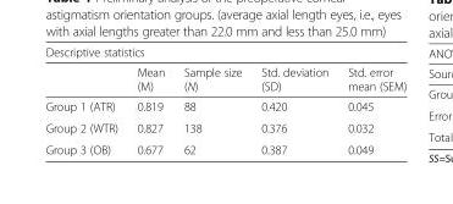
<table><thead><tr><td colspan="5">Descriptive statistics</td></tr><tr><td></td><td>Mean (M)</td><td>Sample size (N)</td><td>Std. deviation (SD)</td><td>Std. error mean (SEM)</td></tr></thead><tbody><tr><td>Group 1 (ATR)</td><td>0.819</td><td>88</td><td>0.420</td><td>0.045</td></tr><tr><td>Group 2 (WTR)</td><td>0.827</td><td>138</td><td>0.376</td><td>0.032</td></tr><tr><td>Group 3 (OB)</td><td>0.677</td><td>62</td><td>0.387</td><td>0.049</td></tr></tbody></table>